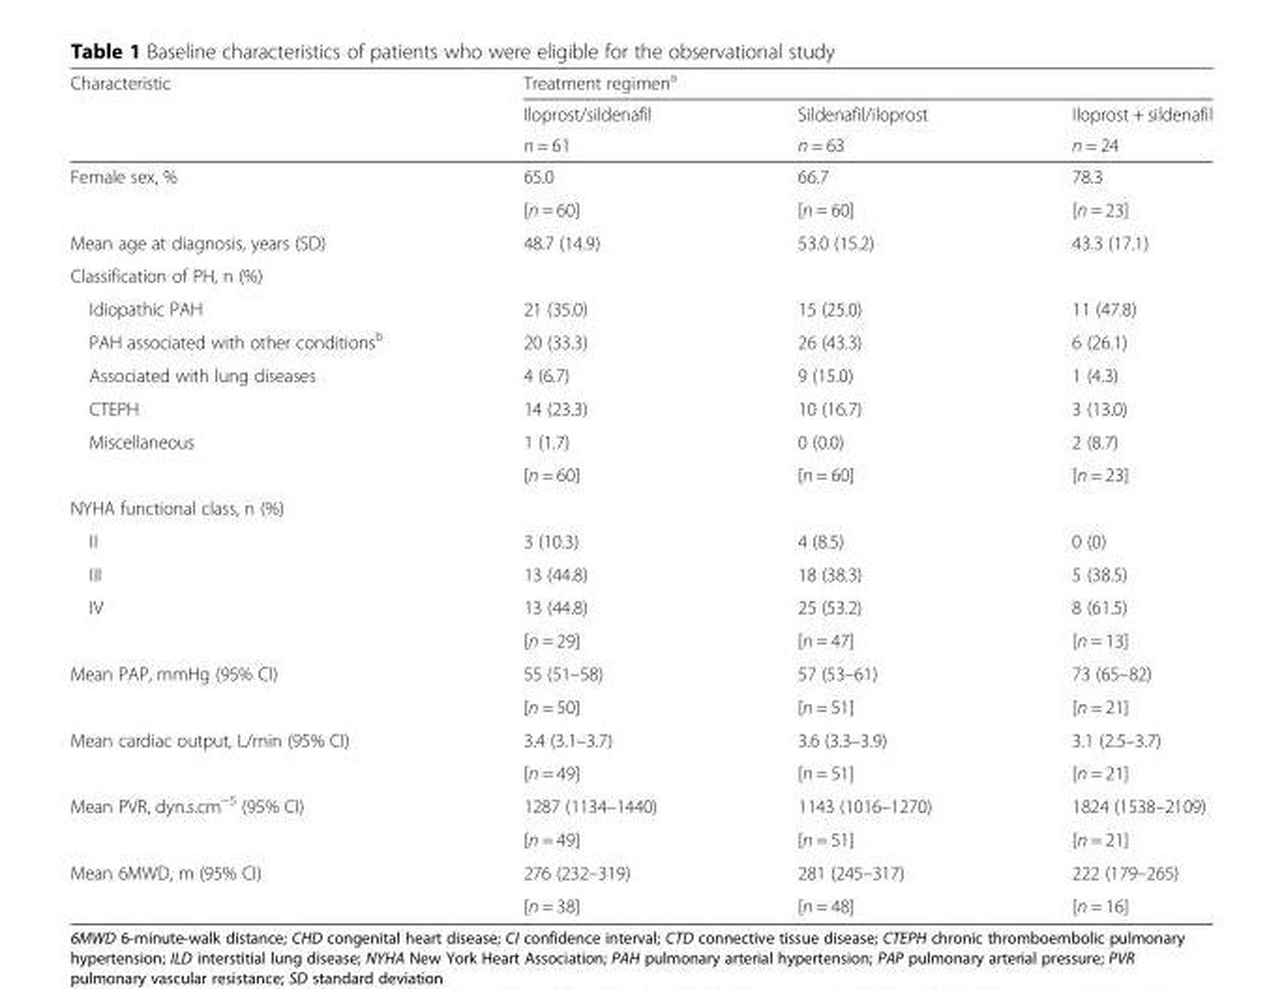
<table><thead><tr><td rowspan="3">Characteristic</td><td colspan="3">Treatment regimen<sup>a</sup></td></tr><tr><td rowspan="2">Iloprost/sildenafil n = 61</td><td rowspan="2">Sildenafil/iloprost n = 63</td><td rowspan="2">Iloprost + sildenafil n = 24</td></tr><tr></tr></thead><tbody><tr><td rowspan="2">Female sex, %</td><td>65.0</td><td>66.7</td><td>78.3</td></tr><tr><td>[n = 60]</td><td>[n = 60]</td><td>[n = 23]</td></tr><tr><td>Mean age at diagnosis, years (SD)</td><td>48.7 (14.9)</td><td>53.0 (15.2)</td><td>43.3 (17.1)</td></tr><tr><td colspan="4">Classification of PH, n (%)</td></tr><tr><td>Idiopathic PAH</td><td>21 (35.0)</td><td>15 (25.0)</td><td>11 (47.8)</td></tr><tr><td>PAH associated with other conditions<sup>b</sup></td><td>20 (33.3)</td><td>26 (43.3)</td><td>6 (26.1)</td></tr><tr><td>Associated with lung diseases</td><td>4 (6.7)</td><td>9 (15.0)</td><td>1 (4.3)</td></tr><tr><td>CTEPH</td><td>14 (23.3)</td><td>10 (16.7)</td><td>3 (13.0)</td></tr><tr><td rowspan="2">Miscellaneous</td><td>1 (1.7)</td><td>0 (0.0)</td><td>2 (8.7)</td></tr><tr><td>[n = 60]</td><td>[n = 60]</td><td>[n = 23]</td></tr><tr><td colspan="4">NYHA functional class, n (%)</td></tr><tr><td>II</td><td>3 (10.3)</td><td>4 (8.5)</td><td>0 (0)</td></tr><tr><td>III</td><td>13 (44.8)</td><td>18 (38.3)</td><td>5 (38.5)</td></tr><tr><td rowspan="2">IV</td><td>13 (44.8)</td><td>25 (53.2)</td><td>8 (61.5)</td></tr><tr><td>[n = 29]</td><td>[n = 47]</td><td>[n = 13]</td></tr><tr><td rowspan="2">Mean PAP, mmHg (95% CI)</td><td>55 (51–58)</td><td>57 (53–61)</td><td>73 (65–82)</td></tr><tr><td>[n = 50]</td><td>[n = 51]</td><td>[n = 21]</td></tr><tr><td rowspan="2">Mean cardiac output, L/min (95% CI)</td><td>3.4 (3.1–3.7)</td><td>3.6 (3.3–3.9)</td><td>3.1 (2.5–3.7)</td></tr><tr><td>[n = 49]</td><td>[n = 51]</td><td>[n = 21]</td></tr><tr><td rowspan="2">Mean PVR, dyn.s.cm<sup>−5</sup> (95% CI)</td><td>1287 (1134–1440)</td><td>1143 (1016–1270)</td><td>1824 (1538–2109)</td></tr><tr><td>[n = 49]</td><td>[n = 51]</td><td>[n = 21]</td></tr><tr><td rowspan="2">Mean 6MWD, m (95% CI)</td><td>276 (232–319)</td><td>281 (245–317)</td><td>222 (179–265)</td></tr><tr><td>[n = 38]</td><td>[n = 48]</td><td>[n = 16]</td></tr></tbody></table>